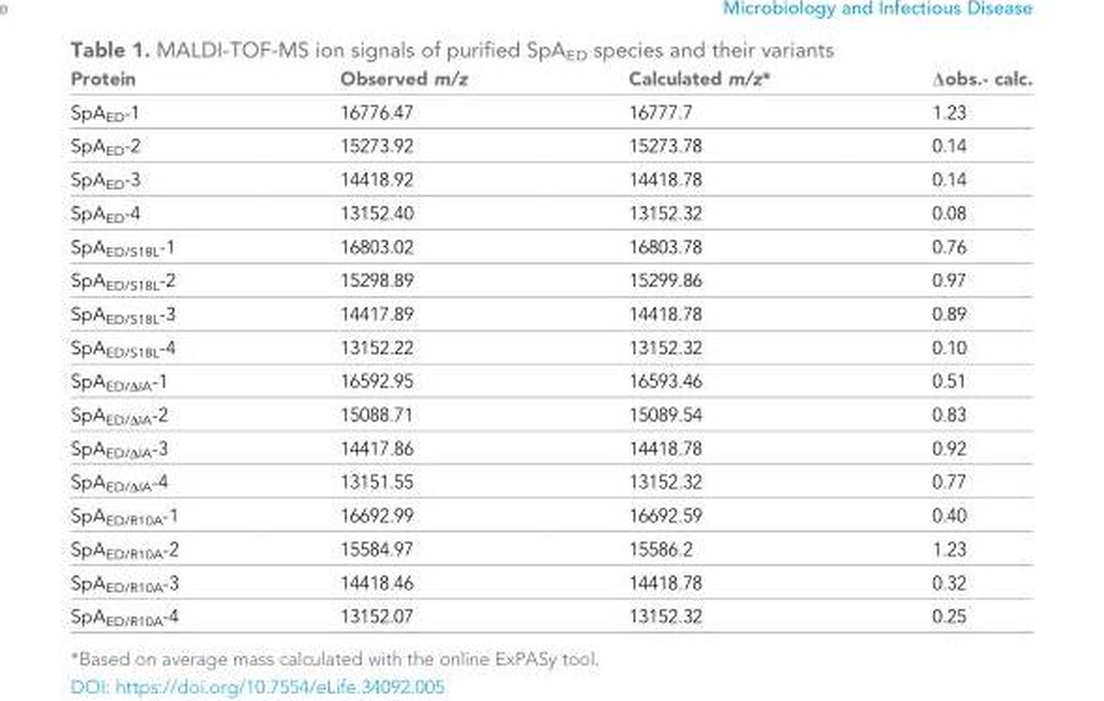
<table><thead><tr><td>Protein</td><td>Observed m/z</td><td>Calculated m/z*</td><td>∆obs.- calc.</td></tr></thead><tbody><tr><td>SpA<sub>ED</sub>-1</td><td>16776.47</td><td>16777.7</td><td>1.23</td></tr><tr><td>SpA<sub>ED</sub>-2</td><td>15273.92</td><td>15273.78</td><td>0.14</td></tr><tr><td>SpA<sub>ED</sub>-3</td><td>14418.92</td><td>14418.78</td><td>0.14</td></tr><tr><td>SpA<sub>ED</sub>-4</td><td>13152.40</td><td>13152.32</td><td>0.08</td></tr><tr><td>SpA<sub>ED/S18L</sub>-1</td><td>16803.02</td><td>16803.78</td><td>0.76</td></tr><tr><td>SpA<sub>ED/S18L</sub>-2</td><td>15298.89</td><td>15299.86</td><td>0.97</td></tr><tr><td>SpA<sub>ED/S18L</sub>-3</td><td>14417.89</td><td>14418.78</td><td>0.89</td></tr><tr><td>SpA<sub>ED/S18L</sub>-4</td><td>13152.22</td><td>13152.32</td><td>0.10</td></tr><tr><td>SpA<sub>ED/∆IA</sub>-1</td><td>16592.95</td><td>16593.46</td><td>0.51</td></tr><tr><td>SpA<sub>ED/∆IA</sub>-2</td><td>15088.71</td><td>15089.54</td><td>0.83</td></tr><tr><td>SpA<sub>ED/∆IA</sub>-3</td><td>14417.86</td><td>14418.78</td><td>0.92</td></tr><tr><td>SpA<sub>ED/∆IA</sub>-4</td><td>13151.55</td><td>13152.32</td><td>0.77</td></tr><tr><td>SpA<sub>ED/R10A</sub>-1</td><td>16692.99</td><td>16692.59</td><td>0.40</td></tr><tr><td>SpA<sub>ED/R10A</sub>-2</td><td>15584.97</td><td>15586.2</td><td>1.23</td></tr><tr><td>SpA<sub>ED/R10A</sub>-3</td><td>14418.46</td><td>14418.78</td><td>0.32</td></tr><tr><td>SpA<sub>ED/R10A</sub>-4</td><td>13152.07</td><td>13152.32</td><td>0.25</td></tr></tbody></table>